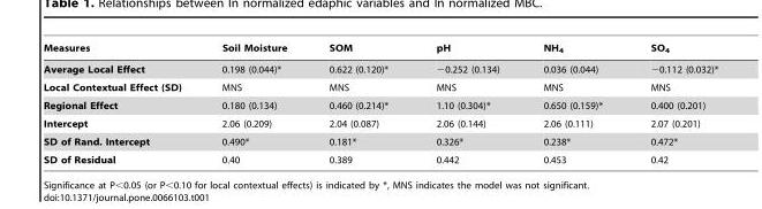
<table><thead><tr><td>Measures</td><td>Soil Moisture</td><td>SOM</td><td>pH</td><td>NH<sub>4</sub></td><td>SO<sub>4</sub></td></tr></thead><tbody><tr><td>Average Local Effect</td><td>0.198 (0.044)*</td><td>0.622 (0.120)*</td><td>−0.252 (0.134)</td><td>0.036 (0.044)</td><td>−0.112 (0.032)*</td></tr><tr><td>Local Contextual Effect (SD)</td><td>MNS</td><td>MNS</td><td>MNS</td><td>MNS</td><td>MNS</td></tr><tr><td>Regional Effect</td><td>0.180 (0.134)</td><td>0.460 (0.214)*</td><td>1.10 (0.304)*</td><td>0.650 (0.159)*</td><td>0.400 (0.201)</td></tr><tr><td>Intercept</td><td>2.06 (0.209)</td><td>2.04 (0.087)</td><td>2.06 (0.144)</td><td>2.06 (0.111)</td><td>2.07 (0.201)</td></tr><tr><td>SD of Rand. Intercept</td><td>0.490*</td><td>0.181*</td><td>0.326*</td><td>0.238*</td><td>0.472*</td></tr><tr><td>SD of Residual</td><td>0.40</td><td>0.389</td><td>0.442</td><td>0.453</td><td>0.42</td></tr></tbody></table>